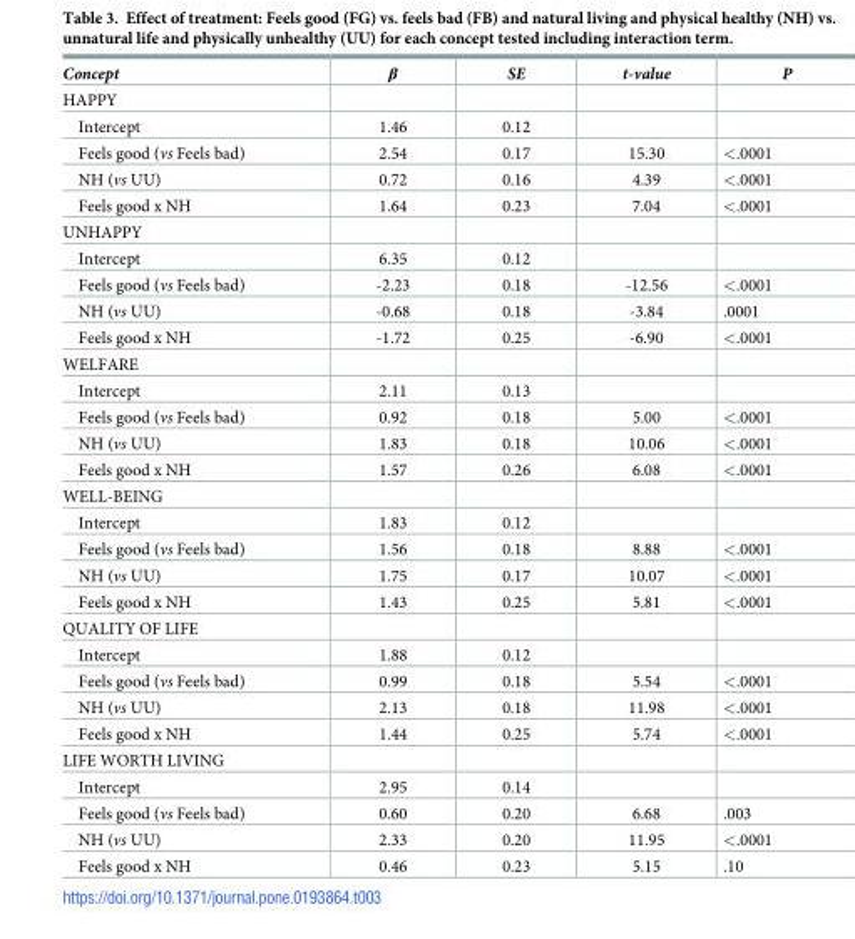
<table><thead><tr><td>Concept</td><td>β</td><td>SE</td><td>t-value</td><td>P</td></tr></thead><tbody><tr><td colspan="5">HAPPY</td></tr><tr><td>Intercept</td><td>1.46</td><td>0.12</td><td></td><td></td></tr><tr><td>Feels good (vs Feels bad)</td><td>2.54</td><td>0.17</td><td>15.30</td><td>&lt;.0001</td></tr><tr><td>NH (vs UU)</td><td>0.72</td><td>0.16</td><td>4.39</td><td>&lt;.0001</td></tr><tr><td>Feels good x NH</td><td>1.64</td><td>0.23</td><td>7.04</td><td>&lt;.0001</td></tr><tr><td colspan="5">UNHAPPY</td></tr><tr><td>Intercept</td><td>6.35</td><td>0.12</td><td></td><td></td></tr><tr><td>Feels good (vs Feels bad)</td><td>-2.23</td><td>0.18</td><td>-12.56</td><td>&lt;.0001</td></tr><tr><td>NH (vs UU)</td><td>-0.68</td><td>0.18</td><td>-3.84</td><td>.0001</td></tr><tr><td>Feels good x NH</td><td>-1.72</td><td>0.25</td><td>-6.90</td><td>&lt;.0001</td></tr><tr><td colspan="5">WELFARE</td></tr><tr><td>Intercept</td><td>2.11</td><td>0.13</td><td></td><td></td></tr><tr><td>Feels good (vs Feels bad)</td><td>0.92</td><td>0.18</td><td>5.00</td><td>&lt;.0001</td></tr><tr><td>NH (vs UU)</td><td>1.83</td><td>0.18</td><td>10.06</td><td>&lt;.0001</td></tr><tr><td>Feels good x NH</td><td>1.57</td><td>0.26</td><td>6.08</td><td>&lt;.0001</td></tr><tr><td colspan="5">WELL-BEING</td></tr><tr><td>Intercept</td><td>1.83</td><td>0.12</td><td></td><td></td></tr><tr><td>Feels good (vs Feels bad)</td><td>1.56</td><td>0.18</td><td>8.88</td><td>&lt;.0001</td></tr><tr><td>NH (vs UU)</td><td>1.75</td><td>0.17</td><td>10.07</td><td>&lt;.0001</td></tr><tr><td>Feels good x NH</td><td>1.43</td><td>0.25</td><td>5.81</td><td>&lt;.0001</td></tr><tr><td colspan="5">QUALITY OF LIFE</td></tr><tr><td>Intercept</td><td>1.88</td><td>0.12</td><td></td><td></td></tr><tr><td>Feels good (vs Feels bad)</td><td>0.99</td><td>0.18</td><td>5.54</td><td>&lt;.0001</td></tr><tr><td>NH (vs UU)</td><td>2.13</td><td>0.18</td><td>11.98</td><td>&lt;.0001</td></tr><tr><td>Feels good x NH</td><td>1.44</td><td>0.25</td><td>5.74</td><td>&lt;.0001</td></tr><tr><td colspan="5">LIFE WORTH LIVING</td></tr><tr><td>Intercept</td><td>2.95</td><td>0.14</td><td></td><td></td></tr><tr><td>Feels good (vs Feels bad)</td><td>0.60</td><td>0.20</td><td>6.68</td><td>.003</td></tr><tr><td>NH (vs UU)</td><td>2.33</td><td>0.20</td><td>11.95</td><td>&lt;.0001</td></tr><tr><td>Feels good x NH</td><td>0.46</td><td>0.23</td><td>5.15</td><td>.10</td></tr></tbody></table>